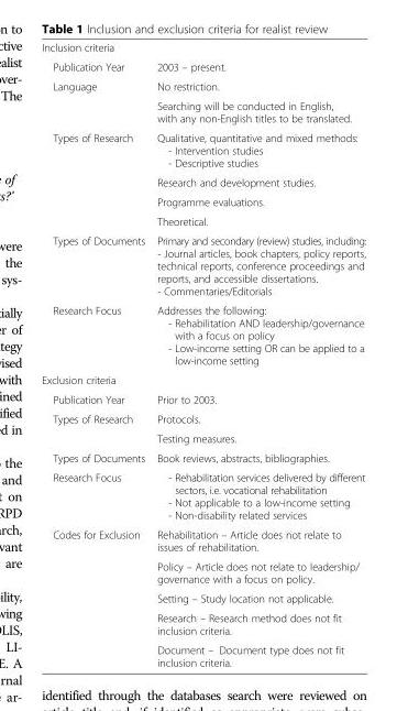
<table><tbody><tr><td colspan="2">Inclusion criteria</td></tr><tr><td>Publication Year</td><td>2003 – present.</td></tr><tr><td rowspan="2">Language</td><td>No restriction.</td></tr><tr><td>Searching will be conducted in English, with any non-English titles to be translated.</td></tr><tr><td rowspan="4">Types of Research</td><td>Qualitative, quantitative and mixed methods: - Intervention studies - Descriptive studies</td></tr><tr><td>Research and development studies.</td></tr><tr><td>Programme evaluations.</td></tr><tr><td>Theoretical.</td></tr><tr><td>Types of Documents</td><td>Primary and secondary (review) studies, including: - Journal articles, book chapters, policy reports, technical reports, conference proceedings and reports, and accessible dissertations. - Commentaries/Editorials</td></tr><tr><td>Research Focus</td><td>Addresses the following: - Rehabilitation AND leadership/governance with a focus on policy - Low-income setting OR can be applied to a low-income setting</td></tr><tr><td colspan="2">Exclusion criteria</td></tr><tr><td>Publication Year</td><td>Prior to 2003.</td></tr><tr><td rowspan="2">Types of Research</td><td>Protocols.</td></tr><tr><td>Testing measures.</td></tr><tr><td>Types of Documents</td><td>Book reviews, abstracts, bibliographies.</td></tr><tr><td>Research Focus</td><td>- Rehabilitation services delivered by different sectors, i.e. vocational rehabilitation - Not applicable to a low-income setting - Non-disability related services</td></tr><tr><td rowspan="5">Codes for Exclusion</td><td>Rehabilitation – Article does not relate to issues of rehabilitation.</td></tr><tr><td>Policy – Article does not relate to leadership/ governance with a focus on policy.</td></tr><tr><td>Setting – Study location not applicable.</td></tr><tr><td>Research – Research method does not fit inclusion criteria.</td></tr><tr><td>Document – Document type does not fit inclusion criteria.</td></tr></tbody></table>